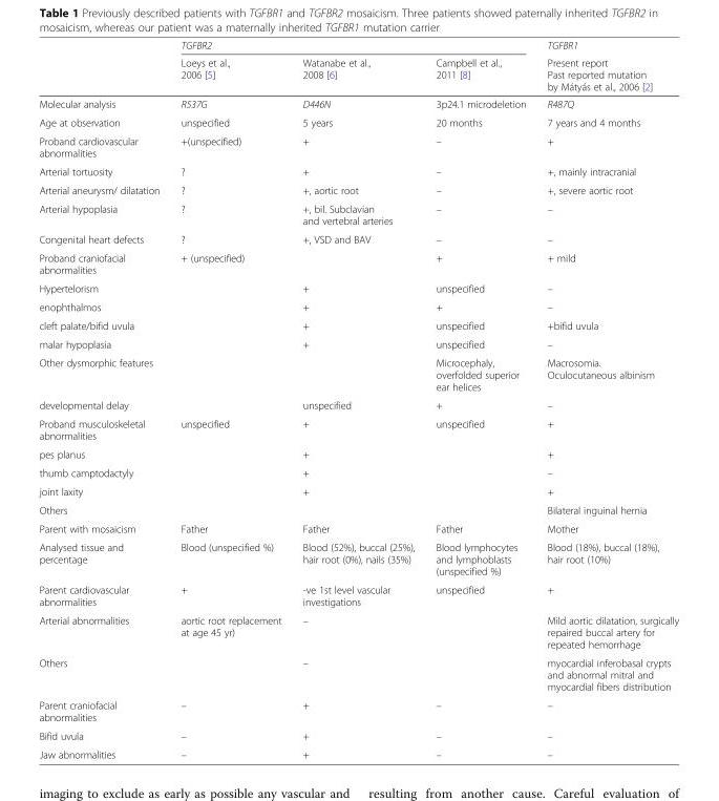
<table><thead><tr><td rowspan="2"></td><td colspan="3">TGFBR2</td><td rowspan="2">TGFBR1 Present report Past reported mutation by Mátyás et al., 2006 [2]</td></tr><tr><td>Loeys et al., 2006 [5]</td><td>Watanabe et al., 2008 [6]</td><td>Campbell et al., 2011 [8]</td></tr></thead><tbody><tr><td>Molecular analysis</td><td>R537G</td><td>D446N</td><td>3p24.1 microdeletion</td><td>R487Q</td></tr><tr><td>Age at observation</td><td>unspecified</td><td>5 years</td><td>20 months</td><td>7 years and 4 months</td></tr><tr><td>Proband cardiovascular abnormalities</td><td>+(unspecified)</td><td>+</td><td>–</td><td>+</td></tr><tr><td>Arterial tortuosity</td><td>?</td><td>+</td><td>–</td><td>+, mainly intracranial</td></tr><tr><td>Arterial aneurysm/ dilatation</td><td>?</td><td>+, aortic root</td><td>–</td><td>+, severe aortic root</td></tr><tr><td>Arterial hypoplasia</td><td>?</td><td>+, bil. Subclavian and vertebral arteries</td><td>–</td><td>–</td></tr><tr><td>Congenital heart defects</td><td>?</td><td>+, VSD and BAV</td><td>–</td><td>–</td></tr><tr><td>Proband craniofacial abnormalities</td><td>+ (unspecified)</td><td></td><td>+</td><td>+ mild</td></tr><tr><td>Hypertelorism</td><td></td><td>+</td><td>unspecified</td><td>–</td></tr><tr><td>enophthalmos</td><td></td><td>+</td><td>+</td><td>–</td></tr><tr><td>cleft palate/bifid uvula</td><td></td><td>+</td><td>unspecified</td><td>+bifid uvula</td></tr><tr><td>malar hypoplasia</td><td></td><td>+</td><td>unspecified</td><td>–</td></tr><tr><td>Other dysmorphic features</td><td></td><td></td><td>Microcephaly, overfolded superior ear helices</td><td>Macrosomia. Oculocutaneous albinism</td></tr><tr><td>developmental delay</td><td></td><td>unspecified</td><td>+</td><td>–</td></tr><tr><td>Proband musculoskeletal abnormalities</td><td>unspecified</td><td>+</td><td>unspecified</td><td>+</td></tr><tr><td>pes planus</td><td></td><td>+</td><td></td><td>+</td></tr><tr><td>thumb camptodactyly</td><td></td><td>+</td><td></td><td>–</td></tr><tr><td>joint laxity</td><td></td><td>+</td><td></td><td>+</td></tr><tr><td>Others</td><td></td><td></td><td></td><td>Bilateral inguinal hernia</td></tr><tr><td>Parent with mosaicism</td><td>Father</td><td>Father</td><td>Father</td><td>Mother</td></tr><tr><td>Analysed tissue and percentage</td><td>Blood (unspecified %)</td><td>Blood (52%), buccal (25%), hair root (0%), nails (35%)</td><td>Blood lymphocytes and lymphoblasts (unspecified %)</td><td>Blood (18%), buccal (18%), hair root (10%)</td></tr><tr><td>Parent cardiovascular abnormalities</td><td>+</td><td>-ve 1st level vascular investigations</td><td>unspecified</td><td>+</td></tr><tr><td>Arterial abnormalities</td><td>aortic root replacement at age 45 yr)</td><td>–</td><td></td><td>Mild aortic dilatation, surgically repaired buccal artery for repeated hemorrhage</td></tr><tr><td>Others</td><td></td><td>–</td><td></td><td>myocardial inferobasal crypts and abnormal mitral and myocardial fibers distribution</td></tr><tr><td>Parent craniofacial abnormalities</td><td>–</td><td>+</td><td>–</td><td>–</td></tr><tr><td>Bifid uvula</td><td>–</td><td>+</td><td>–</td><td>–</td></tr><tr><td>Jaw abnormalities</td><td>–</td><td>+</td><td>–</td><td>–</td></tr></tbody></table>